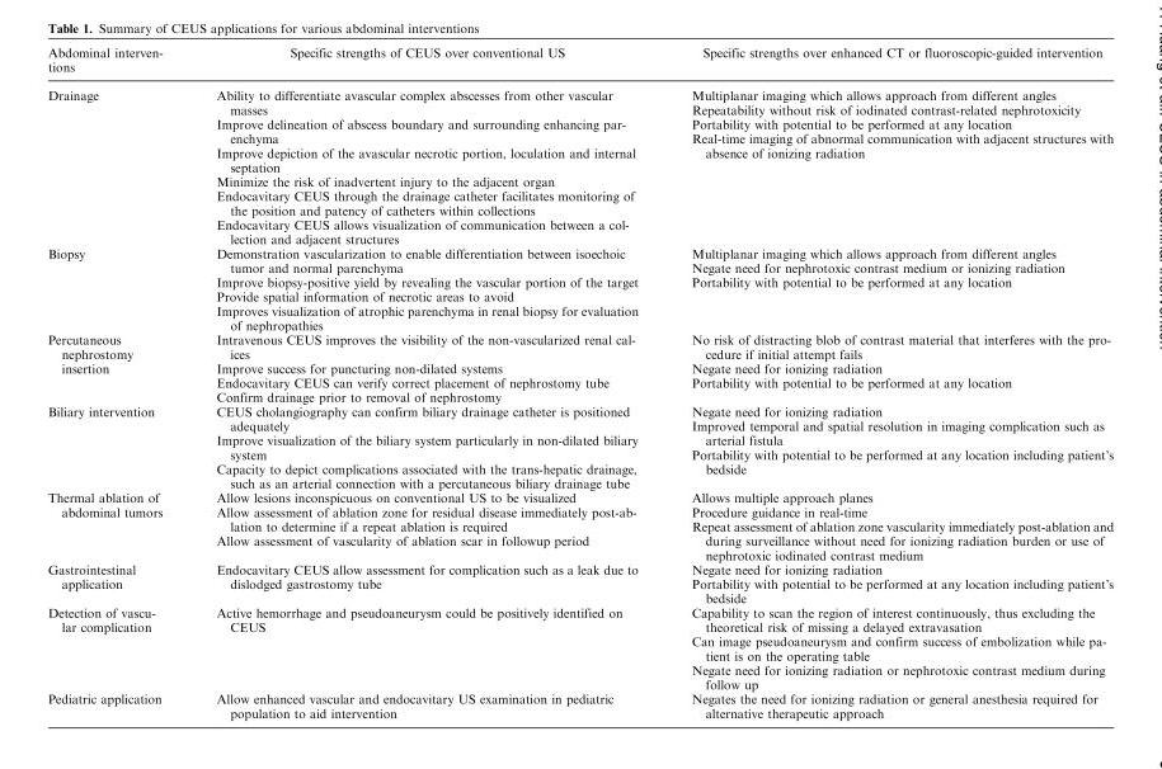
<table><thead><tr><td>Abdominal interven- tions</td><td>Specific strengths of CEUS over conventional US</td><td>Specific strengths over enhanced CT or fluoroscopic-guided intervention</td></tr></thead><tbody><tr><td>Drainage</td><td>Ability to differentiate avascular complex abscesses from other vascular masses Improve delineation of abscess boundary and surrounding enhancing par- enchyma Improve depiction of the avascular necrotic portion, loculation and internal septation Minimize the risk of inadvertent injury to the adjacent organ Endocavitary CEUS through the drainage catheter facilitates monitoring of the position and patency of catheters within collections Endocavitary CEUS allows visualization of communication between a col- lection and adjacent structures</td><td>Multiplanar imaging which allows approach from different angles Repeatability without risk of iodinated contrast-related nephrotoxicity Portability with potential to be performed at any location Real-time imaging of abnormal communication with adjacent structures with absence of ionizing radiation</td></tr><tr><td>Biopsy</td><td>Demonstration vascularization to enable differentiation between isoechoic tumor and normal parenchyma Improve biopsy-positive yield by revealing the vascular portion of the target Provide spatial information of necrotic areas to avoid Improves visualization of atrophic parenchyma in renal biopsy for evaluation of nephropathies</td><td>Multiplanar imaging which allows approach from different angles Negate need for nephrotoxic contrast medium or ionizing radiation Portability with potential to be performed at any location</td></tr><tr><td>Percutaneous nephrostomy insertion</td><td>Intravenous CEUS improves the visibility of the non-vascularized renal cal- ices Improve success for puncturing non-dilated systems Endocavitary CEUS can verify correct placement of nephrostomy tube Confirm drainage prior to removal of nephrostomy</td><td>No risk of distracting blob of contrast material that interferes with the pro- cedure if initial attempt fails Negate need for ionizing radiation Portability with potential to be performed at any location</td></tr><tr><td>Biliary intervention</td><td>CEUS cholangiography can confirm biliary drainage catheter is positioned adequately Improve visualization of the biliary system particularly in non-dilated biliary system Capacity to depict complications associated with the trans-hepatic drainage, such as an arterial connection with a percutaneous biliary drainage tube</td><td>Negate need for ionizing radiation Improved temporal and spatial resolution in imaging complication such as arterial fistula Portability with potential to be performed at any location including patient’s bedside</td></tr><tr><td>Thermal ablation of abdominal tumors</td><td>Allow lesions inconspicuous on conventional US to be visualized Allow assessment of ablation zone for residual disease immediately post-ab- lation to determine if a repeat ablation is required Allow assessment of vascularity of ablation scar in followup period</td><td>Allows multiple approach planes Procedure guidance in real-time Repeat assessment of ablation zone vascularity immediately post-ablation and during surveillance without need for ionizing radiation burden or use of nephrotoxic iodinated contrast medium</td></tr><tr><td>Gastrointestinal application</td><td>Endocavitary CEUS allow assessment for complication such as a leak due to dislodged gastrostomy tube</td><td>Negate need for ionizing radiation Portability with potential to be performed at any location including patient’s bedside</td></tr><tr><td>Detection of vascu- lar complication</td><td>Active hemorrhage and pseudoaneurysm could be positively identified on CEUS</td><td>Capability to scan the region of interest continuously, thus excluding the theoretical risk of missing a delayed extravasation Can image pseudoaneurysm and confirm success of embolization while pa- tient is on the operating table Negate need for ionizing radiation or nephrotoxic contrast medium during follow up</td></tr><tr><td>Pediatric application</td><td>Allow enhanced vascular and endocavitary US examination in pediatric population to aid intervention</td><td>Negates the need for ionizing radiation or general anesthesia required for alternative therapeutic approach</td></tr></tbody></table>